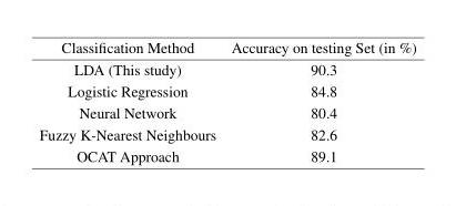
<table><thead><tr><td>Classification Method</td><td>Accuracy on testing Set (in %)</td></tr></thead><tbody><tr><td>LDA (This study)</td><td>90.3</td></tr><tr><td>Logistic Regression</td><td>84.8</td></tr><tr><td>Neural Network</td><td>80.4</td></tr><tr><td>Fuzzy K-Nearest Neighbours</td><td>82.6</td></tr><tr><td>OCAT Approach</td><td>89.1</td></tr></tbody></table>